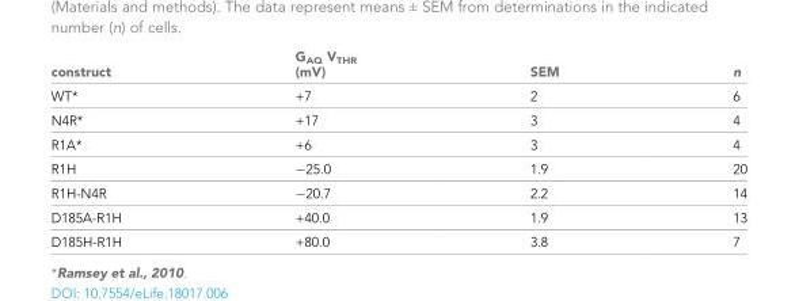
<table><thead><tr><td>construct</td><td>G<sub>AQ</sub> V<sub>THR</sub> (mV)</td><td>SEM</td><td>n</td></tr></thead><tbody><tr><td>WT*</td><td>+7</td><td>2</td><td>6</td></tr><tr><td>N4R*</td><td>+17</td><td>3</td><td>4</td></tr><tr><td>R1A*</td><td>+6</td><td>3</td><td>4</td></tr><tr><td>R1H</td><td>−25.0</td><td>1.9</td><td>20</td></tr><tr><td>R1H-N4R</td><td>−20.7</td><td>2.2</td><td>14</td></tr><tr><td>D185A-R1H</td><td>+40.0</td><td>1.9</td><td>13</td></tr><tr><td>D185H-R1H</td><td>+80.0</td><td>3.8</td><td>7</td></tr></tbody></table>